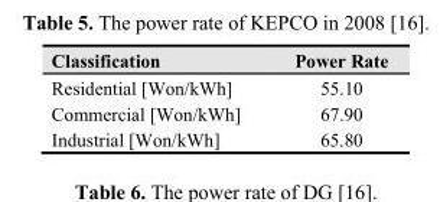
<table><thead><tr><td>Classification</td><td>Power Rate</td></tr></thead><tbody><tr><td>Residential [Won/kWh]</td><td>55.10</td></tr><tr><td>Commercial [Won/kWh]</td><td>67.90</td></tr><tr><td>Industrial [Won/kWh]</td><td>65.80</td></tr></tbody></table>